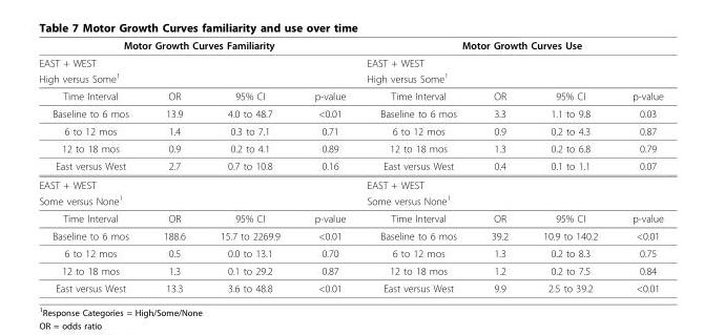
<table><thead><tr><td rowspan="3" colspan="4">Motor Growth Curves Familiarity EAST + WEST High versus Some1</td><td rowspan="3" colspan="4">Motor Growth Curves Use EAST + WEST High versus Some1</td></tr><tr></tr><tr></tr><tr><td>Time Interval</td><td>OR</td><td>95% CI</td><td>p-value</td><td>Time Interval</td><td>OR</td><td>95% CI</td><td>p-value</td></tr></thead><tbody><tr><td>Baseline to 6 mos</td><td>13.9</td><td>4.0 to 48.7</td><td>&lt;0.01</td><td>Baseline to 6 mos</td><td>3.3</td><td>1.1 to 9.8</td><td>0.03</td></tr><tr><td>6 to 12 mos</td><td>1.4</td><td>0.3 to 7.1</td><td>0.71</td><td>6 to 12 mos</td><td>0.9</td><td>0.2 to 4.3</td><td>0.87</td></tr><tr><td>12 to 18 mos</td><td>0.9</td><td>0.2 to 4.1</td><td>0.89</td><td>12 to 18 mos</td><td>1.3</td><td>0.2 to 6.8</td><td>0.79</td></tr><tr><td>East versus West</td><td>2.7</td><td>0.7 to 10.8</td><td>0.16</td><td>East versus West</td><td>0.4</td><td>0.1 to 1.1</td><td>0.07</td></tr><tr><td colspan="4">EAST + WEST</td><td colspan="4">EAST + WEST</td></tr><tr><td colspan="4">Some versus None<sup>1</sup></td><td colspan="4">Some versus None<sup>1</sup></td></tr><tr><td>Time Interval</td><td>OR</td><td>95% CI</td><td>p-value</td><td>Time Interval</td><td>OR</td><td>95% CI</td><td>p-value</td></tr><tr><td>Baseline to 6 mos</td><td>188.6</td><td>15.7 to 2269.9</td><td>&lt;0.01</td><td>Baseline to 6 mos</td><td>39.2</td><td>10.9 to 140.2</td><td>&lt;0.01</td></tr><tr><td>6 to 12 mos</td><td>0.5</td><td>0.0 to 13.1</td><td>0.70</td><td>6 to 12 mos</td><td>1.3</td><td>0.2 to 8.3</td><td>0.75</td></tr><tr><td>12 to 18 mos</td><td>1.3</td><td>0.1 to 29.2</td><td>0.87</td><td>12 to 18 mos</td><td>1.2</td><td>0.2 to 7.5</td><td>0.84</td></tr><tr><td>East versus West</td><td>13.3</td><td>3.6 to 48.8</td><td>&lt;0.01</td><td>East versus West</td><td>9.9</td><td>2.5 to 39.2</td><td>&lt;0.01</td></tr></tbody></table>